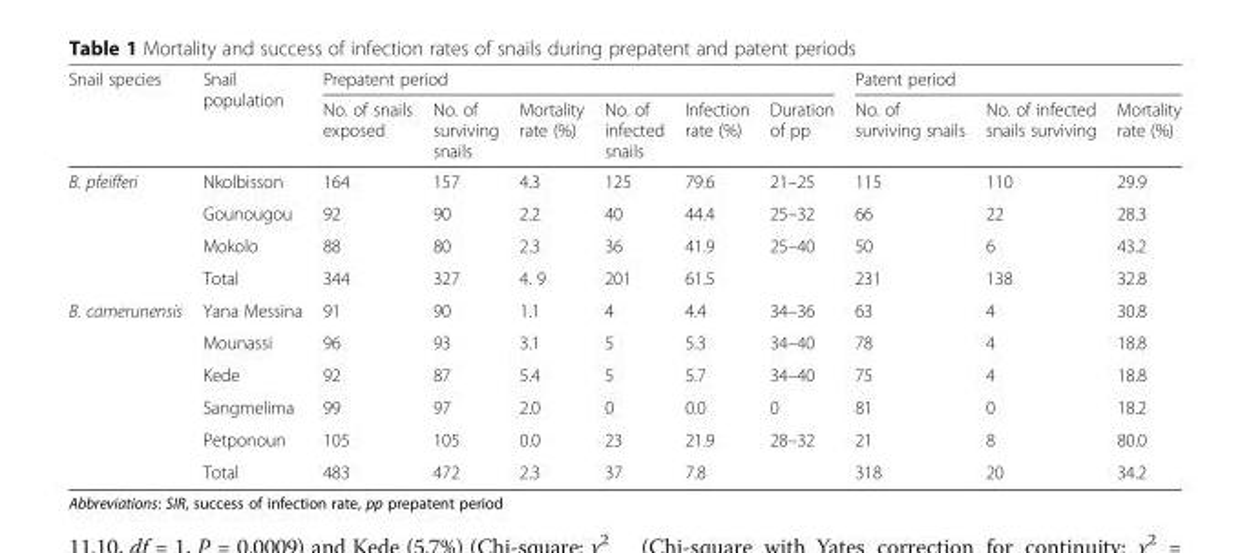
<table><thead><tr><td rowspan="2">Snail species</td><td rowspan="2">Snail population</td><td colspan="6">Prepatent period</td><td colspan="3">Patent period</td></tr><tr><td>No. of snails exposed</td><td>No. of surviving snails</td><td>Mortality rate (%)</td><td>No. of infected snails</td><td>Infection rate (%)</td><td>Duration of pp</td><td>No. of surviving snails</td><td>No. of infected snails surviving</td><td>Mortality rate (%)</td></tr></thead><tbody><tr><td rowspan="4">B. pfeifferi</td><td>Nkolbisson</td><td>164</td><td>157</td><td>4.3</td><td>125</td><td>79.6</td><td>21–25</td><td>115</td><td>110</td><td>29.9</td></tr><tr><td>Gounougou</td><td>92</td><td>90</td><td>2.2</td><td>40</td><td>44.4</td><td>25–32</td><td>66</td><td>22</td><td>28.3</td></tr><tr><td>Mokolo</td><td>88</td><td>80</td><td>2.3</td><td>36</td><td>41.9</td><td>25–40</td><td>50</td><td>6</td><td>43.2</td></tr><tr><td>Total</td><td>344</td><td>327</td><td>4. 9</td><td>201</td><td>61.5</td><td></td><td>231</td><td>138</td><td>32.8</td></tr><tr><td rowspan="6">B. camerunensis</td><td>Yana Messina</td><td>91</td><td>90</td><td>1.1</td><td>4</td><td>4.4</td><td>34–36</td><td>63</td><td>4</td><td>30.8</td></tr><tr><td>Mounassi</td><td>96</td><td>93</td><td>3.1</td><td>5</td><td>5.3</td><td>34–40</td><td>78</td><td>4</td><td>18.8</td></tr><tr><td>Kede</td><td>92</td><td>87</td><td>5.4</td><td>5</td><td>5.7</td><td>34–40</td><td>75</td><td>4</td><td>18.8</td></tr><tr><td>Sangmelima</td><td>99</td><td>97</td><td>2.0</td><td>0</td><td>0.0</td><td>0</td><td>81</td><td>0</td><td>18.2</td></tr><tr><td>Petponoun</td><td>105</td><td>105</td><td>0.0</td><td>23</td><td>21.9</td><td>28–32</td><td>21</td><td>8</td><td>80.0</td></tr><tr><td>Total</td><td>483</td><td>472</td><td>2.3</td><td>37</td><td>7.8</td><td></td><td>318</td><td>20</td><td>34.2</td></tr></tbody></table>